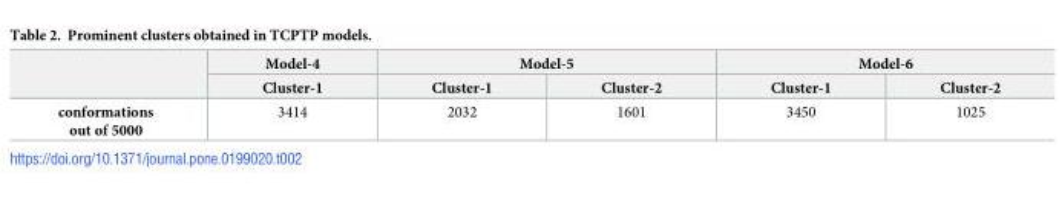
<table><thead><tr><td rowspan="2"></td><td rowspan="2">Model-4 Cluster-1</td><td colspan="2">Model-5</td><td colspan="2">Model-6</td></tr><tr><td>Cluster-1</td><td>Cluster-2</td><td>Cluster-1</td><td>Cluster-2</td></tr></thead><tbody><tr><td>conformations out of 5000</td><td>3414</td><td>2032</td><td>1601</td><td>3450</td><td>1025</td></tr></tbody></table>